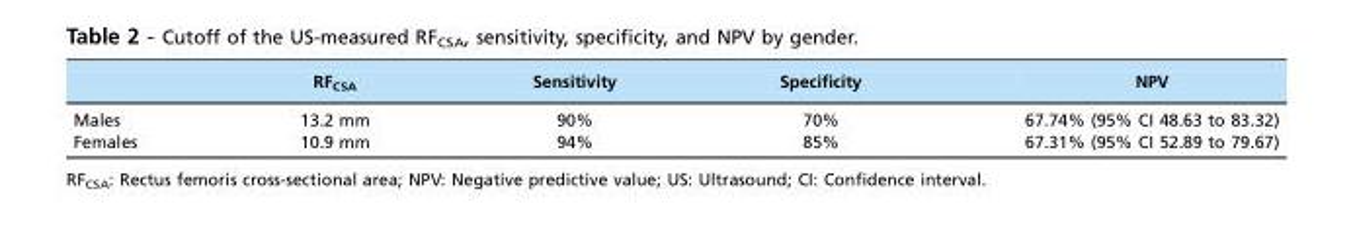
<table><thead><tr><td></td><td>RF<sub>CSA</sub></td><td>Sensitivity</td><td>Specificity</td><td>NPV</td></tr></thead><tbody><tr><td>Males</td><td>13.2 mm</td><td>90%</td><td>70%</td><td>67.74% (95% CI 48.63 to 83.32)</td></tr><tr><td>Females</td><td>10.9 mm</td><td>94%</td><td>85%</td><td>67.31% (95% CI 52.89 to 79.67)</td></tr></tbody></table>